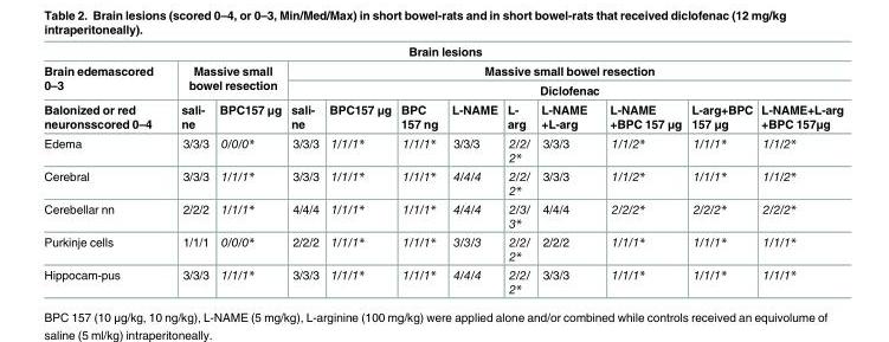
<table><thead><tr><td colspan="12">Brain lesions</td></tr><tr><td rowspan="3">Brain edemascored 0–3 Balonized or red neuronsscored 0–4</td><td rowspan="2" colspan="2">Massive small bowel resection</td><td rowspan="2" colspan="9">Massive small bowel resection Diclofenac</td></tr><tr></tr><tr><td>sali- ne</td><td>BPC157 μg</td><td>sali- ne</td><td>BPC157 μg</td><td>BPC 157 ng</td><td>L-NAME</td><td>L- arg</td><td>L-NAME +L-arg</td><td>L-NAME +BPC 157 μg</td><td>L-arg+BPC 157 μg</td><td>L-NAME+L-arg +BPC 157μg</td></tr></thead><tbody><tr><td>Edema</td><td>3/3/3</td><td>0/0/0*</td><td>3/3/3</td><td>1/1/1*</td><td>1/1/1*</td><td>3/3/3</td><td>2/2/ 2*</td><td>3/3/3</td><td>1/1/2*</td><td>1/1/1*</td><td>1/1/2*</td></tr><tr><td>Cerebral</td><td>3/3/3</td><td>1/1/1*</td><td>3/3/3</td><td>1/1/1*</td><td>1/1/1*</td><td>4/4/4</td><td>2/2/ 2*</td><td>3/3/3</td><td>1/1/2*</td><td>1/1/1*</td><td>1/1/2*</td></tr><tr><td>Cerebellar nn</td><td>2/2/2</td><td>1/1/1*</td><td>4/4/4</td><td>1/1/1*</td><td>1/1/1*</td><td>4/4/4</td><td>2/3/ 3*</td><td>4/4/4</td><td>2/2/2*</td><td>2/2/2*</td><td>2/2/2*</td></tr><tr><td>Purkinje cells</td><td>1/1/1</td><td>0/0/0*</td><td>2/2/2</td><td>1/1/1*</td><td>1/1/1*</td><td>3/3/3</td><td>2/2/ 2*</td><td>2/2/2</td><td>1/1/1*</td><td>1/1/1*</td><td>1/1/1*</td></tr><tr><td>Hippocam-pus</td><td>3/3/3</td><td>1/1/1*</td><td>3/3/3</td><td>1/1/1*</td><td>1/1/1*</td><td>4/4/4</td><td>2/2/ 2*</td><td>3/3/3</td><td>1/1/1*</td><td>1/1/1*</td><td>1/1/1*</td></tr></tbody></table>